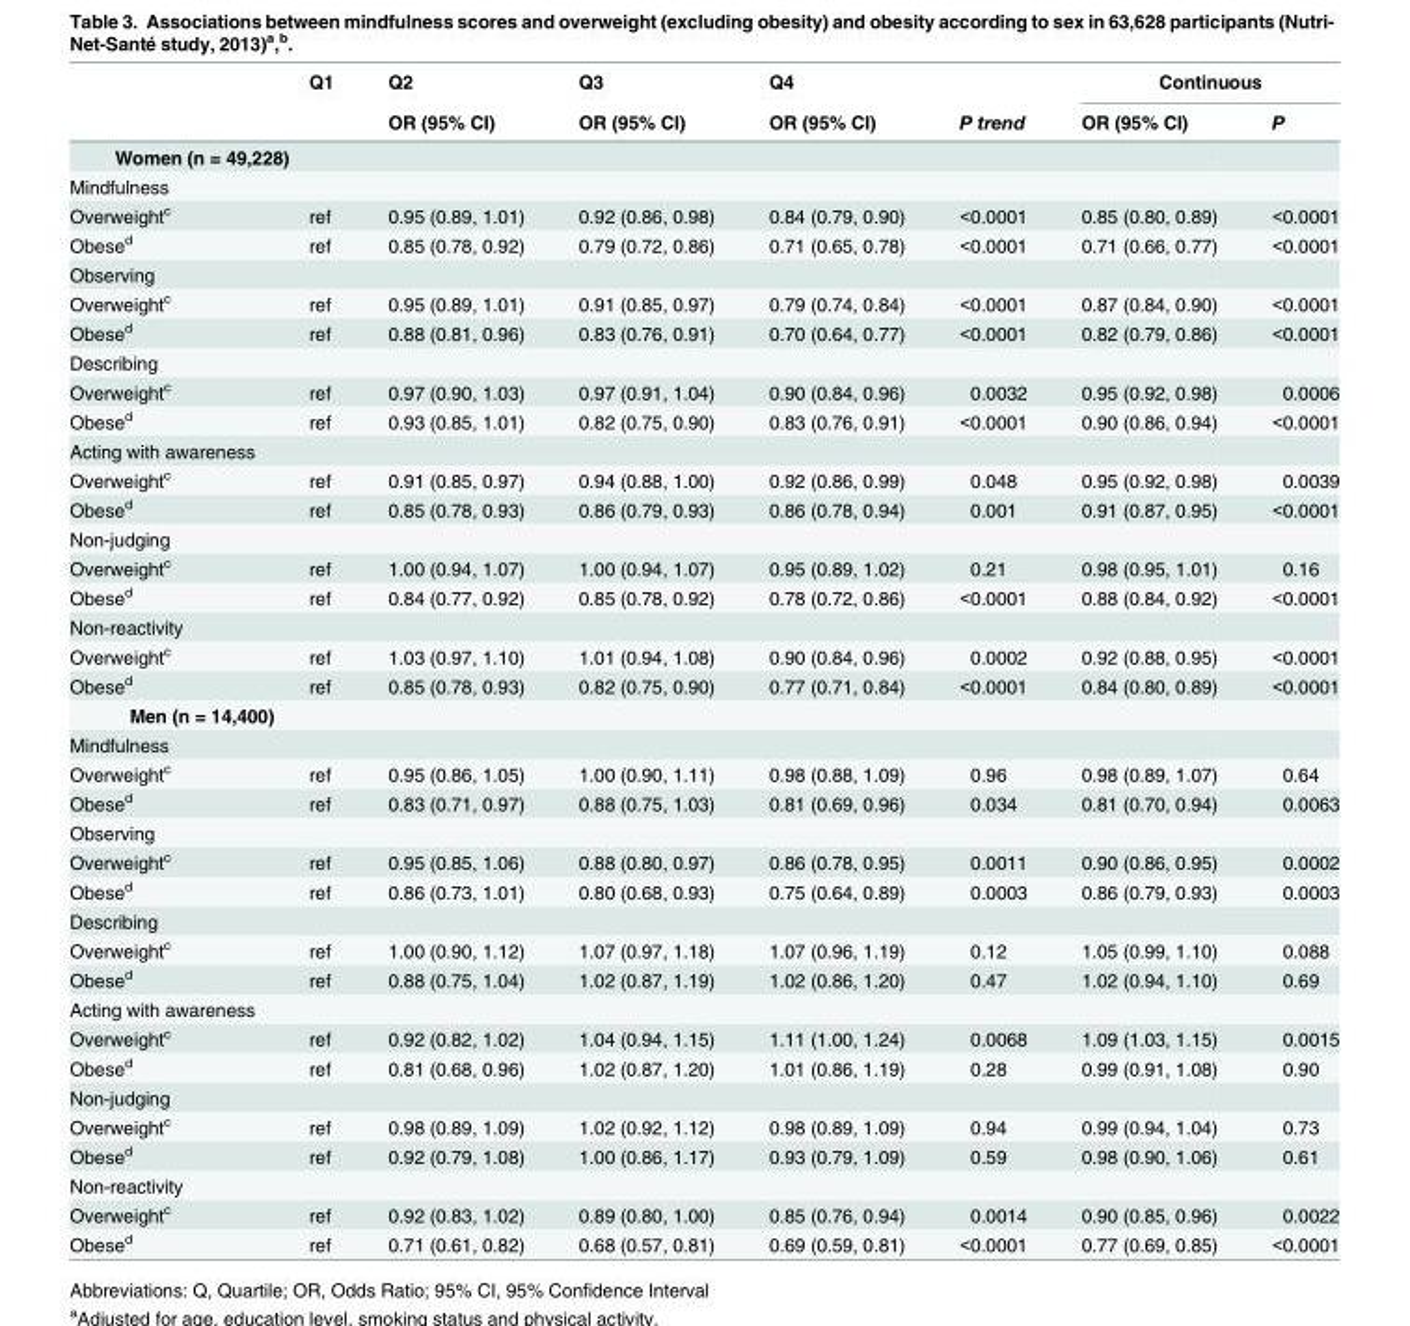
<table><thead><tr><td rowspan="2"></td><td rowspan="2">Q1</td><td rowspan="2">Q2 OR (95% CI)</td><td rowspan="2">Q3 OR (95% CI)</td><td rowspan="2">Q4 OR (95% CI)</td><td rowspan="2">P trend</td><td colspan="2">Continuous</td></tr><tr><td>OR (95% CI)</td><td>P</td></tr></thead><tbody><tr><td colspan="8">Women (n = 49,228)</td></tr><tr><td colspan="8">Mindfulness</td></tr><tr><td>Overweight<sup>c</sup></td><td>ref</td><td>0.95 (0.89, 1.01)</td><td>0.92 (0.86, 0.98)</td><td>0.84 (0.79, 0.90)</td><td>&lt;0.0001</td><td>0.85 (0.80, 0.89)</td><td>&lt;0.0001</td></tr><tr><td>Obese<sup>d</sup></td><td>ref</td><td>0.85 (0.78, 0.92)</td><td>0.79 (0.72, 0.86)</td><td>0.71 (0.65, 0.78)</td><td>&lt;0.0001</td><td>0.71 (0.66, 0.77)</td><td>&lt;0.0001</td></tr><tr><td colspan="8">Observing</td></tr><tr><td>Overweight<sup>c</sup></td><td>ref</td><td>0.95 (0.89, 1.01)</td><td>0.91 (0.85, 0.97)</td><td>0.79 (0.74, 0.84)</td><td>&lt;0.0001</td><td>0.87 (0.84, 0.90)</td><td>&lt;0.0001</td></tr><tr><td>Obese<sup>d</sup></td><td>ref</td><td>0.88 (0.81, 0.96)</td><td>0.83 (0.76, 0.91)</td><td>0.70 (0.64, 0.77)</td><td>&lt;0.0001</td><td>0.82 (0.79, 0.86)</td><td>&lt;0.0001</td></tr><tr><td colspan="8">Describing</td></tr><tr><td>Overweight<sup>c</sup></td><td>ref</td><td>0.97 (0.90, 1.03)</td><td>0.97 (0.91, 1.04)</td><td>0.90 (0.84, 0.96)</td><td>0.0032</td><td>0.95 (0.92, 0.98)</td><td>0.0006</td></tr><tr><td>Obese<sup>d</sup></td><td>ref</td><td>0.93 (0.85, 1.01)</td><td>0.82 (0.75, 0.90)</td><td>0.83 (0.76, 0.91)</td><td>&lt;0.0001</td><td>0.90 (0.86, 0.94)</td><td>&lt;0.0001</td></tr><tr><td colspan="8">Acting with awareness</td></tr><tr><td>Overweight<sup>c</sup></td><td>ref</td><td>0.91 (0.85, 0.97)</td><td>0.94 (0.88, 1.00)</td><td>0.92 (0.86, 0.99)</td><td>0.048</td><td>0.95 (0.92, 0.98)</td><td>0.0039</td></tr><tr><td>Obese<sup>d</sup></td><td>ref</td><td>0.85 (0.78, 0.93)</td><td>0.86 (0.79, 0.93)</td><td>0.86 (0.78, 0.94)</td><td>0.001</td><td>0.91 (0.87, 0.95)</td><td>&lt;0.0001</td></tr><tr><td colspan="8">Non-judging</td></tr><tr><td>Overweight<sup>c</sup></td><td>ref</td><td>1.00 (0.94, 1.07)</td><td>1.00 (0.94, 1.07)</td><td>0.95 (0.89, 1.02)</td><td>0.21</td><td>0.98 (0.95, 1.01)</td><td>0.16</td></tr><tr><td>Obese<sup>d</sup></td><td>ref</td><td>0.84 (0.77, 0.92)</td><td>0.85 (0.78, 0.92)</td><td>0.78 (0.72, 0.86)</td><td>&lt;0.0001</td><td>0.88 (0.84, 0.92)</td><td>&lt;0.0001</td></tr><tr><td colspan="8">Non-reactivity</td></tr><tr><td>Overweight<sup>c</sup></td><td>ref</td><td>1.03 (0.97, 1.10)</td><td>1.01 (0.94, 1.08)</td><td>0.90 (0.84, 0.96)</td><td>0.0002</td><td>0.92 (0.88, 0.95)</td><td>&lt;0.0001</td></tr><tr><td>Obese<sup>d</sup></td><td>ref</td><td>0.85 (0.78, 0.93)</td><td>0.82 (0.75, 0.90)</td><td>0.77 (0.71, 0.84)</td><td>&lt;0.0001</td><td>0.84 (0.80, 0.89)</td><td>&lt;0.0001</td></tr><tr><td colspan="8">Men (n = 14,400)</td></tr><tr><td colspan="8">Mindfulness</td></tr><tr><td>Overweight<sup>c</sup></td><td>ref</td><td>0.95 (0.86, 1.05)</td><td>1.00 (0.90, 1.11)</td><td>0.98 (0.88, 1.09)</td><td>0.96</td><td>0.98 (0.89, 1.07)</td><td>0.64</td></tr><tr><td>Obese<sup>d</sup></td><td>ref</td><td>0.83 (0.71, 0.97)</td><td>0.88 (0.75, 1.03)</td><td>0.81 (0.69, 0.96)</td><td>0.034</td><td>0.81 (0.70, 0.94)</td><td>0.0063</td></tr><tr><td colspan="8">Observing</td></tr><tr><td>Overweight<sup>c</sup></td><td>ref</td><td>0.95 (0.85, 1.06)</td><td>0.88 (0.80, 0.97)</td><td>0.86 (0.78, 0.95)</td><td>0.0011</td><td>0.90 (0.86, 0.95)</td><td>0.0002</td></tr><tr><td>Obese<sup>d</sup></td><td>ref</td><td>0.86 (0.73, 1.01)</td><td>0.80 (0.68, 0.93)</td><td>0.75 (0.64, 0.89)</td><td>0.0003</td><td>0.86 (0.79, 0.93)</td><td>0.0003</td></tr><tr><td colspan="8">Describing</td></tr><tr><td>Overweight<sup>c</sup></td><td>ref</td><td>1.00 (0.90, 1.12)</td><td>1.07 (0.97, 1.18)</td><td>1.07 (0.96, 1.19)</td><td>0.12</td><td>1.05 (0.99, 1.10)</td><td>0.088</td></tr><tr><td>Obese<sup>d</sup></td><td>ref</td><td>0.88 (0.75, 1.04)</td><td>1.02 (0.87, 1.19)</td><td>1.02 (0.86, 1.20)</td><td>0.47</td><td>1.02 (0.94, 1.10)</td><td>0.69</td></tr><tr><td colspan="8">Acting with awareness</td></tr><tr><td>Overweight<sup>c</sup></td><td>ref</td><td>0.92 (0.82, 1.02)</td><td>1.04 (0.94, 1.15)</td><td>1.11 (1.00, 1.24)</td><td>0.0068</td><td>1.09 (1.03, 1.15)</td><td>0.0015</td></tr><tr><td>Obese<sup>d</sup></td><td>ref</td><td>0.81 (0.68, 0.96)</td><td>1.02 (0.87, 1.20)</td><td>1.01 (0.86, 1.19)</td><td>0.28</td><td>0.99 (0.91, 1.08)</td><td>0.90</td></tr><tr><td colspan="8">Non-judging</td></tr><tr><td>Overweight<sup>c</sup></td><td>ref</td><td>0.98 (0.89, 1.09)</td><td>1.02 (0.92, 1.12)</td><td>0.98 (0.89, 1.09)</td><td>0.94</td><td>0.99 (0.94, 1.04)</td><td>0.73</td></tr><tr><td>Obese<sup>d</sup></td><td>ref</td><td>0.92 (0.79, 1.08)</td><td>1.00 (0.86, 1.17)</td><td>0.93 (0.79, 1.09)</td><td>0.59</td><td>0.98 (0.90, 1.06)</td><td>0.61</td></tr><tr><td colspan="8">Non-reactivity</td></tr><tr><td>Overweight<sup>c</sup></td><td>ref</td><td>0.92 (0.83, 1.02)</td><td>0.89 (0.80, 1.00)</td><td>0.85 (0.76, 0.94)</td><td>0.0014</td><td>0.90 (0.85, 0.96)</td><td>0.0022</td></tr><tr><td>Obese<sup>d</sup></td><td>ref</td><td>0.71 (0.61, 0.82)</td><td>0.68 (0.57, 0.81)</td><td>0.69 (0.59, 0.81)</td><td>&lt;0.0001</td><td>0.77 (0.69, 0.85)</td><td>&lt;0.0001</td></tr></tbody></table>